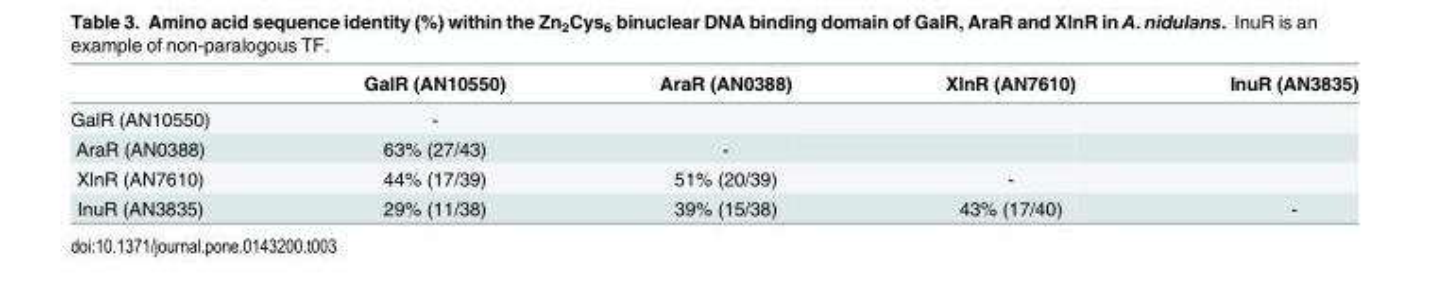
<table><thead><tr><td></td><td>GalR (AN10550)</td><td>AraR (AN0388)</td><td>XlnR (AN7610)</td><td>InuR (AN3835)</td></tr></thead><tbody><tr><td>GalR (AN10550)</td><td>-</td><td></td><td></td><td></td></tr><tr><td>AraR (AN0388)</td><td>63% (27/43)</td><td>-</td><td></td><td></td></tr><tr><td>XlnR (AN7610)</td><td>44% (17/39)</td><td>51% (20/39)</td><td>-</td><td></td></tr><tr><td>InuR (AN3835)</td><td>29% (11/38)</td><td>39% (15/38)</td><td>43% (17/40)</td><td>-</td></tr></tbody></table>